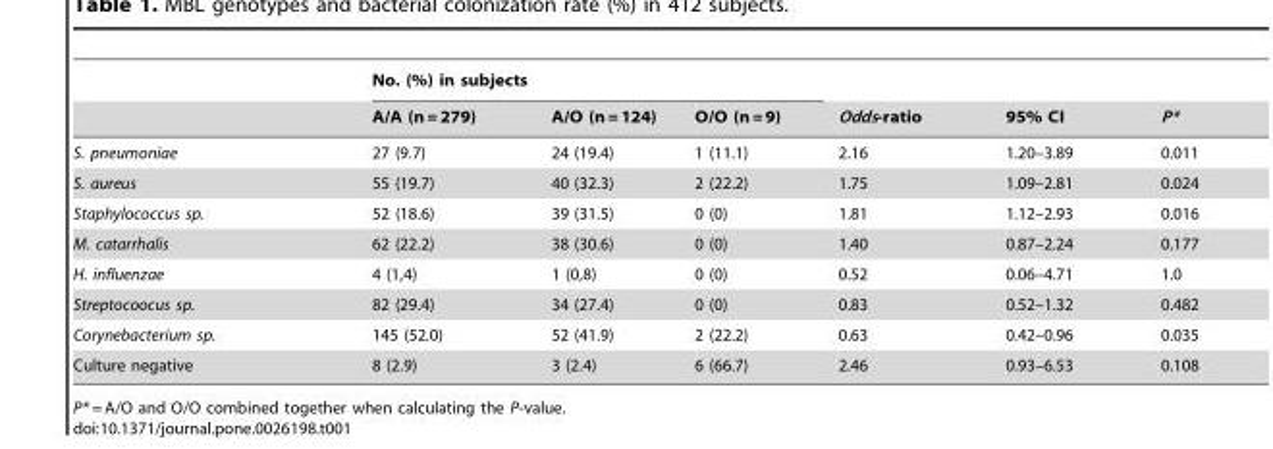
<table><thead><tr><td rowspan="2"></td><td colspan="3">No. (%) in subjects</td><td rowspan="2">Odds-ratio</td><td rowspan="2">95% CI</td><td rowspan="2">P*</td></tr><tr><td>A/A (n = 279)</td><td>A/O (n = 124)</td><td>O/O (n = 9)</td></tr></thead><tbody><tr><td>S. pneumoniae</td><td>27 (9.7)</td><td>24 (19.4)</td><td>1 (11.1)</td><td>2.16</td><td>1.20–3.89</td><td>0.011</td></tr><tr><td>S. aureus</td><td>55 (19.7)</td><td>40 (32.3)</td><td>2 (22.2)</td><td>1.75</td><td>1.09–2.81</td><td>0.024</td></tr><tr><td>Staphylococcus sp.</td><td>52 (18.6)</td><td>39 (31.5)</td><td>0 (0)</td><td>1.81</td><td>1.12–2.93</td><td>0.016</td></tr><tr><td>M. catarrhalis</td><td>62 (22.2)</td><td>38 (30.6)</td><td>0 (0)</td><td>1.40</td><td>0.87–2.24</td><td>0.177</td></tr><tr><td>H. influenzae</td><td>4 (1,4)</td><td>1 (0,8)</td><td>0 (0)</td><td>0.52</td><td>0.06–4.71</td><td>1.0</td></tr><tr><td>Streptocoocus sp.</td><td>82 (29.4)</td><td>34 (27.4)</td><td>0 (0)</td><td>0.83</td><td>0.52–1.32</td><td>0.482</td></tr><tr><td>Corynebacterium sp.</td><td>145 (52.0)</td><td>52 (41.9)</td><td>2 (22.2)</td><td>0.63</td><td>0.42–0.96</td><td>0.035</td></tr><tr><td>Culture negative</td><td>8 (2.9)</td><td>3 (2.4)</td><td>6 (66.7)</td><td>2.46</td><td>0.93–6.53</td><td>0.108</td></tr></tbody></table>